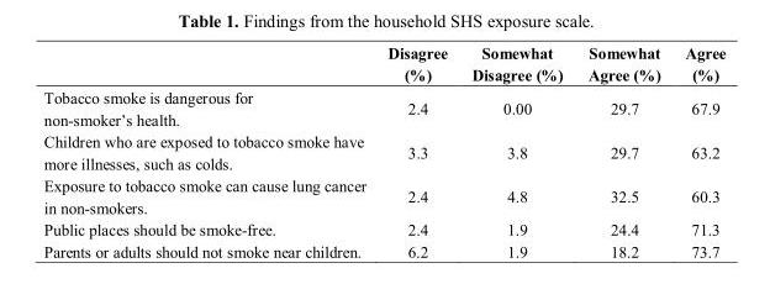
<table><thead><tr><td></td><td>Disagree (%)</td><td>Somewhat Disagree (%)</td><td>Somewhat Agree (%)</td><td>Agree (%)</td></tr></thead><tbody><tr><td>Tobacco smoke is dangerous for non-smoker’s health.</td><td>2.4</td><td>0.00</td><td>29.7</td><td>67.9</td></tr><tr><td>Children who are exposed to tobacco smoke have more illnesses, such as colds.</td><td>3.3</td><td>3.8</td><td>29.7</td><td>63.2</td></tr><tr><td>Exposure to tobacco smoke can cause lung cancer in non-smokers.</td><td>2.4</td><td>4.8</td><td>32.5</td><td>60.3</td></tr><tr><td>Public places should be smoke-free.</td><td>2.4</td><td>1.9</td><td>24.4</td><td>71.3</td></tr><tr><td>Parents or adults should not smoke near children.</td><td>6.2</td><td>1.9</td><td>18.2</td><td>73.7</td></tr></tbody></table>